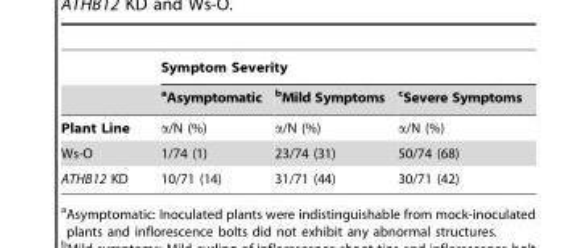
<table><thead><tr><td rowspan="2"></td><td colspan="3">Symptom Severity</td></tr><tr><td>aAsymptomatic</td><td>bMild Symptoms</td><td>cSevere Symptoms</td></tr></thead><tbody><tr><td>Plant Line</td><td>α/N (%)</td><td>α/N (%)</td><td>α/N (%)</td></tr><tr><td>Ws-O</td><td>1/74 (1)</td><td>23/74 (31)</td><td>50/74 (68)</td></tr><tr><td>ATHB12 KD</td><td>10/71 (14)</td><td>31/71 (44)</td><td>30/71 (42)</td></tr></tbody></table>